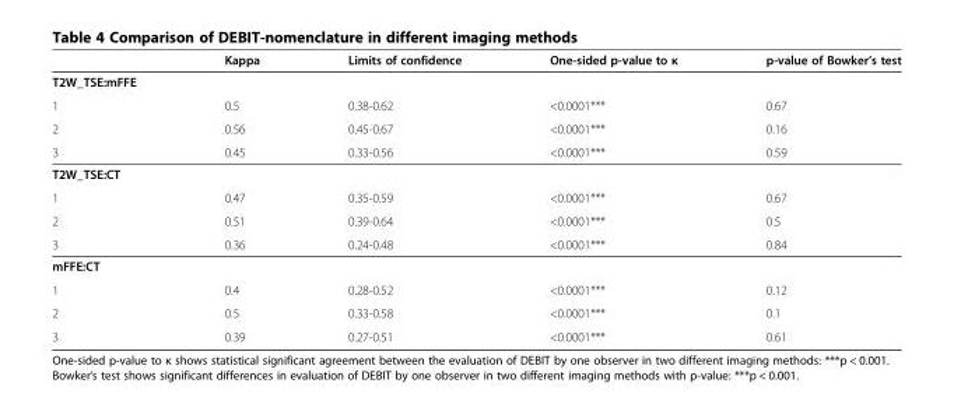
<table><thead><tr><td></td><td>Kappa</td><td>Limits of confidence</td><td>One-sided p-value to κ</td><td>p-value of Bowker’s test</td></tr></thead><tbody><tr><td colspan="5">T2W_TSE:mFFE</td></tr><tr><td>1</td><td>0.5</td><td>0.38-0.62</td><td>&lt;0.0001***</td><td>0.67</td></tr><tr><td>2</td><td>0.56</td><td>0.45-0.67</td><td>&lt;0.0001***</td><td>0.16</td></tr><tr><td>3</td><td>0.45</td><td>0.33-0.56</td><td>&lt;0.0001***</td><td>0.59</td></tr><tr><td colspan="5">T2W_TSE:CT</td></tr><tr><td>1</td><td>0.47</td><td>0.35-0.59</td><td>&lt;0.0001***</td><td>0.67</td></tr><tr><td>2</td><td>0.51</td><td>0.39-0.64</td><td>&lt;0.0001***</td><td>0.5</td></tr><tr><td>3</td><td>0.36</td><td>0.24-0.48</td><td>&lt;0.0001***</td><td>0.84</td></tr><tr><td colspan="5">mFFE:CT</td></tr><tr><td>1</td><td>0.4</td><td>0.28-0.52</td><td>&lt;0.0001***</td><td>0.12</td></tr><tr><td>2</td><td>0.5</td><td>0.33-0.58</td><td>&lt;0.0001***</td><td>0.1</td></tr><tr><td>3</td><td>0.39</td><td>0.27-0.51</td><td>&lt;0.0001***</td><td>0.61</td></tr></tbody></table>